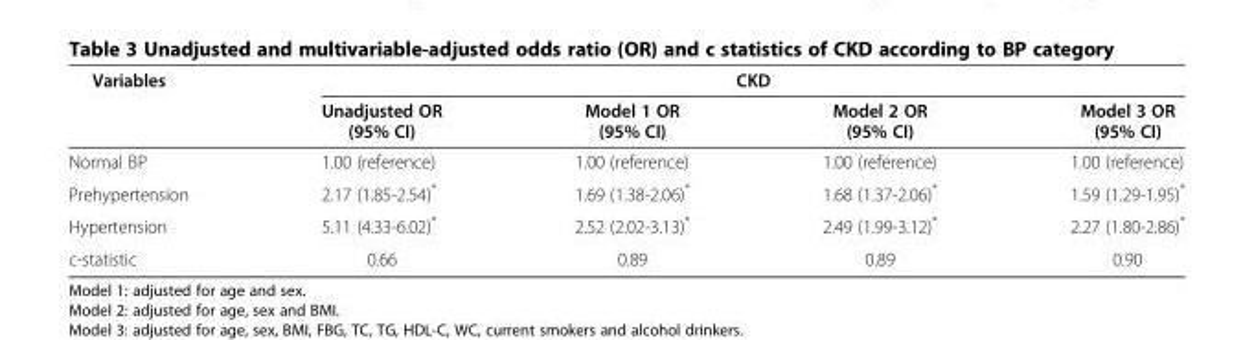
<table><thead><tr><td rowspan="2">Variables</td><td colspan="4">CKD</td></tr><tr><td>Unadjusted OR (95% CI)</td><td>Model 1 OR (95% CI)</td><td>Model 2 OR (95% CI)</td><td>Model 3 OR (95% CI)</td></tr></thead><tbody><tr><td>Normal BP</td><td>1.00 (reference)</td><td>1.00 (reference)</td><td>1.00 (reference)</td><td>1.00 (reference)</td></tr><tr><td>Prehypertension</td><td>2.17 (1.85-2.54)*</td><td>1.69 (1.38-2.06)*</td><td>1.68 (1.37-2.06)*</td><td>1.59 (1.29-1.95)*</td></tr><tr><td>Hypertension</td><td>5.11 (4.33-6.02)*</td><td>2.52 (2.02-3.13)*</td><td>2.49 (1.99-3.12)*</td><td>2.27 (1.80-2.86)*</td></tr><tr><td>c-statistic</td><td>0.66</td><td>0.89</td><td>0.89</td><td>0.90</td></tr></tbody></table>